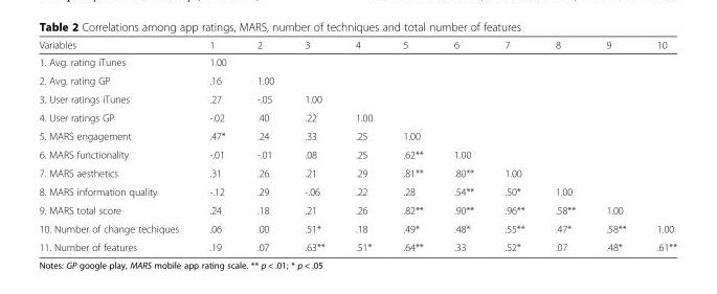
<table><thead><tr><td>Variables</td><td>1</td><td>2</td><td>3</td><td>4</td><td>5</td><td>6</td><td>7</td><td>8</td><td>9</td><td>10</td></tr></thead><tbody><tr><td>1. Avg. rating iTunes</td><td>1.00</td><td></td><td></td><td></td><td></td><td></td><td></td><td></td><td></td><td></td></tr><tr><td>2. Avg. rating GP</td><td>.16</td><td>1.00</td><td></td><td></td><td></td><td></td><td></td><td></td><td></td><td></td></tr><tr><td>3. User ratings iTunes</td><td>.27</td><td>-.05</td><td>1.00</td><td></td><td></td><td></td><td></td><td></td><td></td><td></td></tr><tr><td>4. User ratings GP</td><td>-.02</td><td>.40</td><td>.22</td><td>1.00</td><td></td><td></td><td></td><td></td><td></td><td></td></tr><tr><td>5. MARS engagement</td><td>.47*</td><td>.24</td><td>.33</td><td>.25</td><td>1.00</td><td></td><td></td><td></td><td></td><td></td></tr><tr><td>6. MARS functionality</td><td>-.01</td><td>-.01</td><td>.08</td><td>.25</td><td>.62**</td><td>1.00</td><td></td><td></td><td></td><td></td></tr><tr><td>7. MARS aesthetics</td><td>.31</td><td>.26</td><td>.21</td><td>.29</td><td>.81**</td><td>.80**</td><td>1.00</td><td></td><td></td><td></td></tr><tr><td>8. MARS information quality</td><td>-.12</td><td>.29</td><td>-.06</td><td>.22</td><td>.28</td><td>.54**</td><td>.50*</td><td>1.00</td><td></td><td></td></tr><tr><td>9. MARS total score</td><td>.24</td><td>.18</td><td>.21</td><td>.26</td><td>.82**</td><td>.90**</td><td>.96**</td><td>.58**</td><td>1.00</td><td></td></tr><tr><td>10. Number of change techiques</td><td>.06</td><td>.00</td><td>.51*</td><td>.18</td><td>.49*</td><td>.48*</td><td>.55**</td><td>.47*</td><td>.58**</td><td>1.00</td></tr><tr><td>11. Number of features</td><td>.19</td><td>.07</td><td>.63**</td><td>.51*</td><td>.64**</td><td>.33</td><td>.52*</td><td>.07</td><td>.48*</td><td>.61**</td></tr></tbody></table>